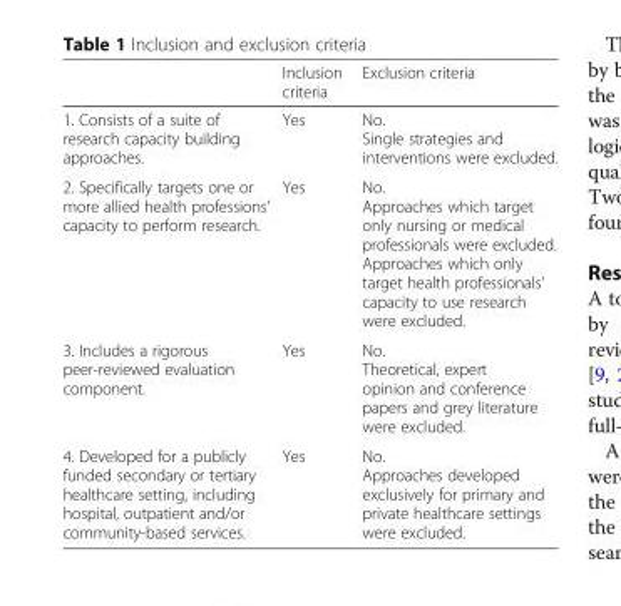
<table><thead><tr><td></td><td>Inclusion criteria</td><td>Exclusion criteria</td></tr></thead><tbody><tr><td>1. Consists of a suite of research capacity building approaches.</td><td>Yes</td><td>No. Single strategies and interventions were excluded.</td></tr><tr><td>2. Specifically targets one or more allied health professions’ capacity to perform research.</td><td>Yes</td><td>No. Approaches which target only nursing or medical professionals were excluded. Approaches which only target health professionals’ capacity to use research were excluded.</td></tr><tr><td>3. Includes a rigorous peer-reviewed evaluation component.</td><td>Yes</td><td>No. Theoretical, expert opinion and conference papers and grey literature were excluded.</td></tr><tr><td>4. Developed for a publicly funded secondary or tertiary healthcare setting, including hospital, outpatient and/or community-based services.</td><td>Yes</td><td>No. Approaches developed exclusively for primary and private healthcare settings were excluded.</td></tr></tbody></table>